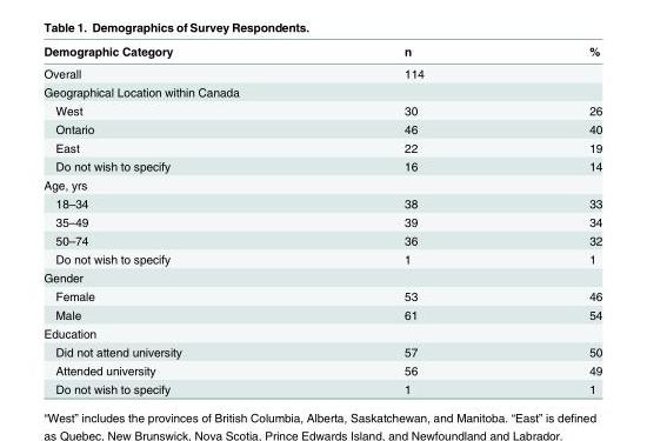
<table><thead><tr><td>Demographic Category</td><td>n</td><td>%</td></tr></thead><tbody><tr><td>Overall</td><td>114</td><td></td></tr><tr><td colspan="3">Geographical Location within Canada</td></tr><tr><td>West</td><td>30</td><td>26</td></tr><tr><td>Ontario</td><td>46</td><td>40</td></tr><tr><td>East</td><td>22</td><td>19</td></tr><tr><td>Do not wish to specify</td><td>16</td><td>14</td></tr><tr><td colspan="3">Age, yrs</td></tr><tr><td>18–34</td><td>38</td><td>33</td></tr><tr><td>35–49</td><td>39</td><td>34</td></tr><tr><td>50–74</td><td>36</td><td>32</td></tr><tr><td>Do not wish to specify</td><td>1</td><td>1</td></tr><tr><td colspan="3">Gender</td></tr><tr><td>Female</td><td>53</td><td>46</td></tr><tr><td>Male</td><td>61</td><td>54</td></tr><tr><td colspan="3">Education</td></tr><tr><td>Did not attend university</td><td>57</td><td>50</td></tr><tr><td>Attended university</td><td>56</td><td>49</td></tr><tr><td>Do not wish to specify</td><td>1</td><td>1</td></tr></tbody></table>